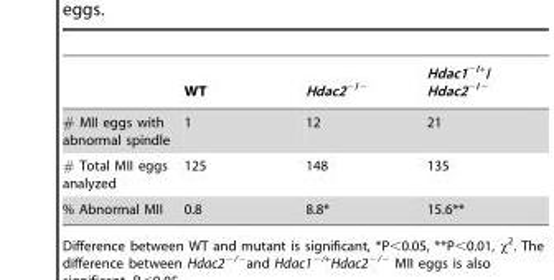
<table><thead><tr><td></td><td>WT</td><td>Hdac2<sup>−/−</sup></td><td>Hdac1<sup>−/+</sup>/ Hdac2<sup>−/−</sup></td></tr></thead><tbody><tr><td># MII eggs with abnormal spindle</td><td>1</td><td>12</td><td>21</td></tr><tr><td># Total MII eggs analyzed</td><td>125</td><td>148</td><td>135</td></tr><tr><td>% Abnormal MII</td><td>0.8</td><td>8.8*</td><td>15.6**</td></tr></tbody></table>